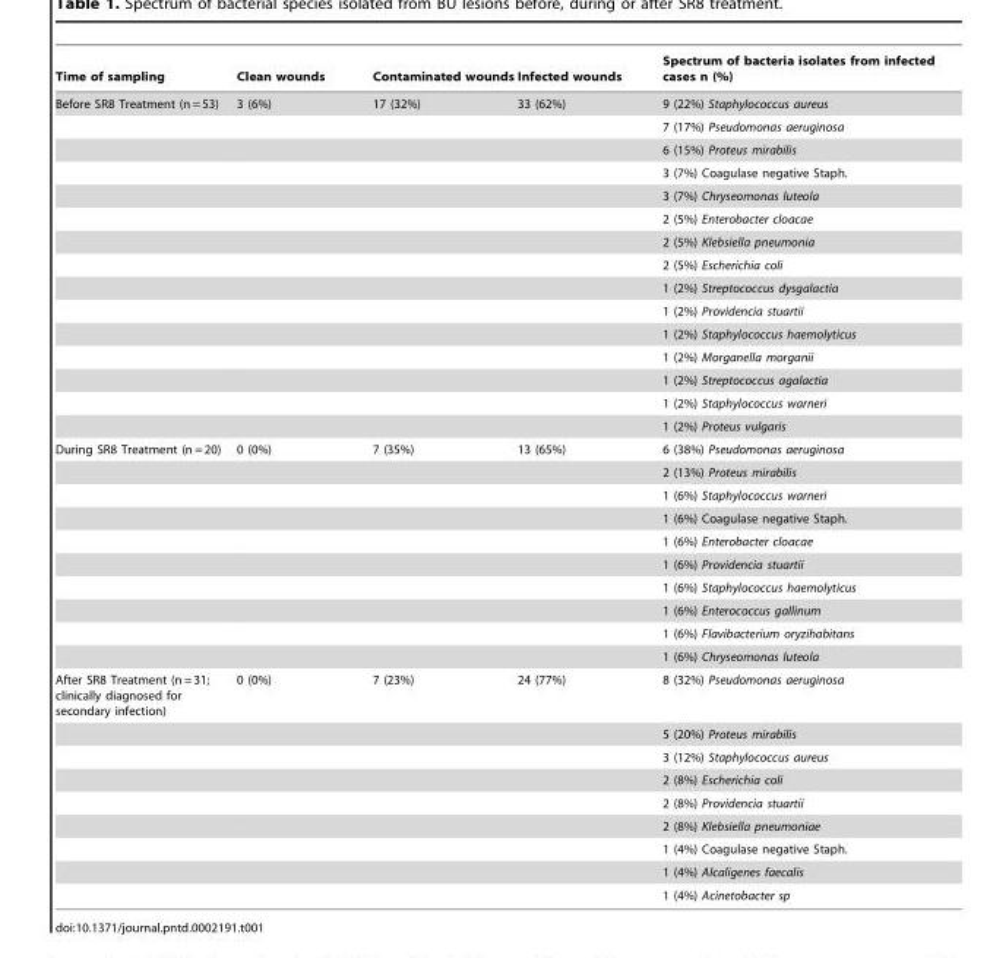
<table><thead><tr><td>Time of sampling</td><td>Clean wounds</td><td>Contaminated wounds</td><td>Infected wounds</td><td>Spectrum of bacteria isolates from infected cases n (%)</td></tr></thead><tbody><tr><td rowspan="15">Before SR8 Treatment (n = 53)</td><td>3 (6%)</td><td>17 (32%)</td><td>33 (62%)</td><td>9 (22%) Staphylococcus aureus</td></tr><tr><td></td><td></td><td></td><td>7 (17%) Pseudomonas aeruginosa</td></tr><tr><td></td><td></td><td></td><td>6 (15%) Proteus mirabilis</td></tr><tr><td></td><td></td><td></td><td>3 (7%) Coagulase negative Staph.</td></tr><tr><td></td><td></td><td></td><td>3 (7%) Chryseomonas luteola</td></tr><tr><td></td><td></td><td></td><td>2 (5%) Enterobacter cloacae</td></tr><tr><td></td><td></td><td></td><td>2 (5%) Klebsiella pneumonia</td></tr><tr><td></td><td></td><td></td><td>2 (5%) Escherichia coli</td></tr><tr><td></td><td></td><td></td><td>1 (2%) Streptococcus dysgalactia</td></tr><tr><td></td><td></td><td></td><td>1 (2%) Providencia stuartii</td></tr><tr><td></td><td></td><td></td><td>1 (2%) Staphylococcus haemolyticus</td></tr><tr><td></td><td></td><td></td><td>1 (2%) Morganella morganii</td></tr><tr><td></td><td></td><td></td><td>1 (2%) Streptococcus agalactia</td></tr><tr><td></td><td></td><td></td><td>1 (2%) Staphylococcus warneri</td></tr><tr><td></td><td></td><td></td><td>1 (2%) Proteus vulgaris</td></tr><tr><td rowspan="10">During SR8 Treatment (n = 20)</td><td>0 (0%)</td><td>7 (35%)</td><td>13 (65%)</td><td>6 (38%) Pseudomonas aeruginosa</td></tr><tr><td></td><td></td><td></td><td>2 (13%) Proteus mirabilis</td></tr><tr><td></td><td></td><td></td><td>1 (6%) Staphylococcus warneri</td></tr><tr><td></td><td></td><td></td><td>1 (6%) Coagulase negative Staph.</td></tr><tr><td></td><td></td><td></td><td>1 (6%) Enterobacter cloacae</td></tr><tr><td></td><td></td><td></td><td>1 (6%) Providencia stuartii</td></tr><tr><td></td><td></td><td></td><td>1 (6%) Staphylococcus haemolyticus</td></tr><tr><td></td><td></td><td></td><td>1 (6%) Enterococcus gallinum</td></tr><tr><td></td><td></td><td></td><td>1 (6%) Flavibacterium oryzihabitans</td></tr><tr><td></td><td></td><td></td><td>1 (6%) Chryseomonas luteola</td></tr><tr><td rowspan="9">After SR8 Treatment (n = 31; clinically diagnosed for secondary infection)</td><td>0 (0%)</td><td>7 (23%)</td><td>24 (77%)</td><td>8 (32%) Pseudomonas aeruginosa</td></tr><tr><td></td><td></td><td></td><td>5 (20%) Proteus mirabilis</td></tr><tr><td></td><td></td><td></td><td>3 (12%) Staphylococcus aureus</td></tr><tr><td></td><td></td><td></td><td>2 (8%) Escherichia coli</td></tr><tr><td></td><td></td><td></td><td>2 (8%) Providencia stuartii</td></tr><tr><td></td><td></td><td></td><td>2 (8%) Klebsiella pneumoniae</td></tr><tr><td></td><td></td><td></td><td>1 (4%) Coagulase negative Staph.</td></tr><tr><td></td><td></td><td></td><td>1 (4%) Alcaligenes faecalis</td></tr><tr><td></td><td></td><td></td><td>1 (4%) Acinetobacter sp</td></tr></tbody></table>